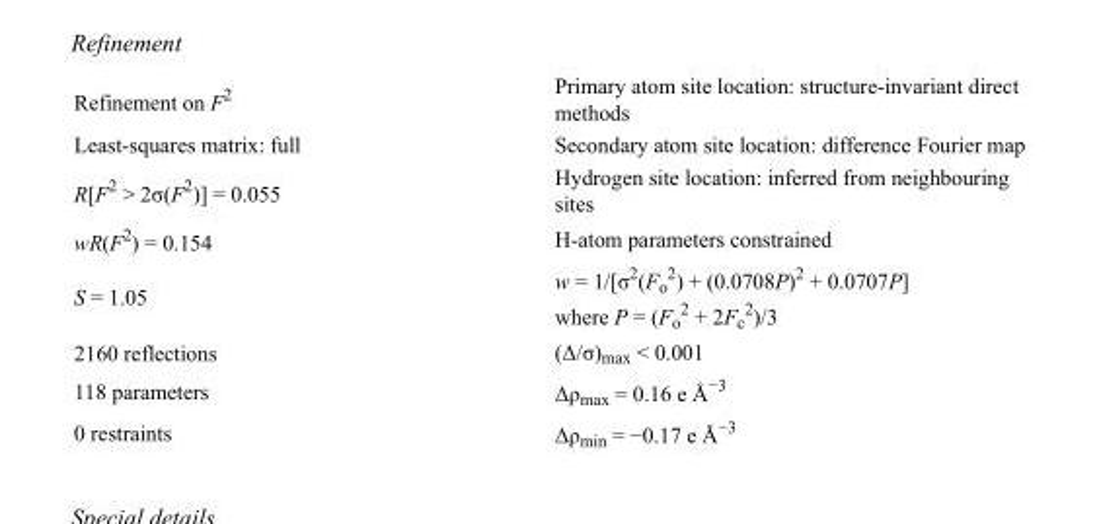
<table><tbody><tr><td>Refinement on F<sup>2</sup></td><td>Primary atom site location: structure-invariant direct methods</td></tr><tr><td>Least-squares matrix: full</td><td>Secondary atom site location: difference Fourier map</td></tr><tr><td>R[F<sup>2</sup> &gt; 2σ(F<sup>2</sup>)] = 0.055</td><td>Hydrogen site location: inferred from neighbouring sites</td></tr><tr><td>wR(F<sup>2</sup>) = 0.154</td><td>H-atom parameters constrained</td></tr><tr><td>S = 1.05</td><td>w = 1/[σ<sup>2</sup>(F<sub>o</sub> <sup>2</sup>) + (0.0708P)<sup>2</sup> + 0.0707P] where P = (F<sub>o</sub> <sup>2</sup> + 2F<sub>c</sub> <sup>2</sup>)/3</td></tr><tr><td>2160 reflections</td><td>(Δ/σ)<sub>max</sub> &lt; 0.001</td></tr><tr><td>118 parameters</td><td>Δρ<sub>max</sub> = 0.16 e Å<sup>−3</sup></td></tr><tr><td>0 restraints</td><td>Δρ<sub>min</sub> = −0.17 e Å<sup>−3</sup></td></tr></tbody></table>